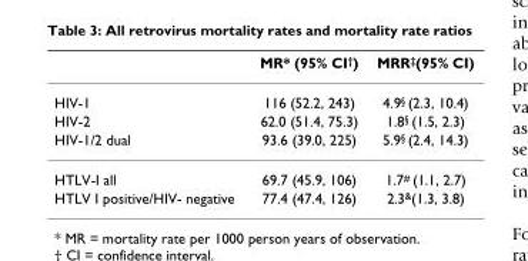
<table><thead><tr><td></td><td>MR* (95% CI<sup>†</sup>)</td><td>MRR<sup>‡</sup>(95% CI)</td></tr></thead><tbody><tr><td>HIV-1</td><td>116 (52.2, 243)</td><td>4.9<sup>§</sup> (2.3, 10.4)</td></tr><tr><td>HIV-2</td><td>62.0 (51.4, 75.3)</td><td>1.8<sup>§</sup> (1.5, 2.3)</td></tr><tr><td>HIV-1/2 dual</td><td>93.6 (39.0, 225)</td><td>5.9<sup>§</sup> (2.4, 14.3)</td></tr><tr><td>HTLV-I all</td><td>69.7 (45.9, 106)</td><td>1.7<sup>#</sup> (1.1, 2.7)</td></tr><tr><td>HTLV I positive/HIV- negative</td><td>77.4 (47.4, 126)</td><td>2.3<sup>&amp;</sup>(1.3, 3.8)</td></tr></tbody></table>